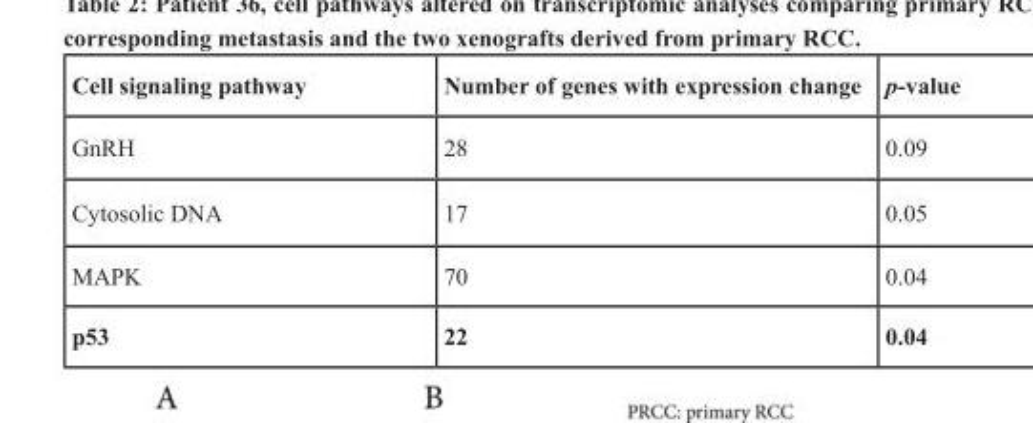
<table><thead><tr><td>Cell signaling pathway</td><td>Number of genes with expression change</td><td>p-value</td></tr></thead><tbody><tr><td>GnRH</td><td>28</td><td>0.09</td></tr><tr><td>Cytosolic DNA</td><td>17</td><td>0.05</td></tr><tr><td>MAPK</td><td>70</td><td>0.04</td></tr><tr><td>p53</td><td>22</td><td>0.04</td></tr></tbody></table>